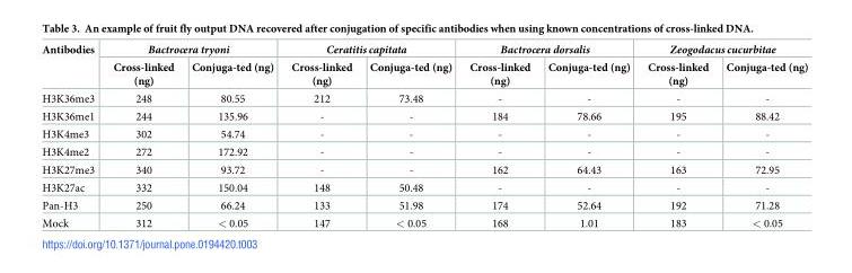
<table><thead><tr><td rowspan="2">Antibodies</td><td colspan="2">Bactrocera tryoni</td><td colspan="2">Ceratitis capitata</td><td colspan="2">Bactrocera dorsalis</td><td colspan="2">Zeogodacus cucurbitae</td></tr><tr><td>Cross-linked (ng)</td><td>Conjuga-ted (ng)</td><td>Cross-linked (ng)</td><td>Conjuga-ted (ng)</td><td>Cross-linked (ng)</td><td>Conjuga-ted (ng)</td><td>Cross-linked (ng)</td><td>Conjuga-ted (ng)</td></tr></thead><tbody><tr><td>H3K36me3</td><td>248</td><td>80.55</td><td>212</td><td>73.48</td><td>-</td><td>-</td><td>-</td><td>-</td></tr><tr><td>H3K36me1</td><td>244</td><td>135.96</td><td>-</td><td>-</td><td>184</td><td>78.66</td><td>195</td><td>88.42</td></tr><tr><td>H3K4me3</td><td>302</td><td>54.74</td><td>-</td><td>-</td><td>-</td><td>-</td><td>-</td><td>-</td></tr><tr><td>H3K4me2</td><td>272</td><td>172.92</td><td>-</td><td>-</td><td>-</td><td>-</td><td>-</td><td>-</td></tr><tr><td>H3K27me3</td><td>340</td><td>93.72</td><td>-</td><td>-</td><td>162</td><td>64.43</td><td>163</td><td>72.95</td></tr><tr><td>H3K27ac</td><td>332</td><td>150.04</td><td>148</td><td>50.48</td><td>-</td><td>-</td><td>-</td><td>-</td></tr><tr><td>Pan-H3</td><td>250</td><td>66.24</td><td>133</td><td>51.98</td><td>174</td><td>52.64</td><td>192</td><td>71.28</td></tr><tr><td>Mock</td><td>312</td><td>&lt; 0.05</td><td>147</td><td>&lt; 0.05</td><td>168</td><td>1.01</td><td>183</td><td>&lt; 0.05</td></tr></tbody></table>